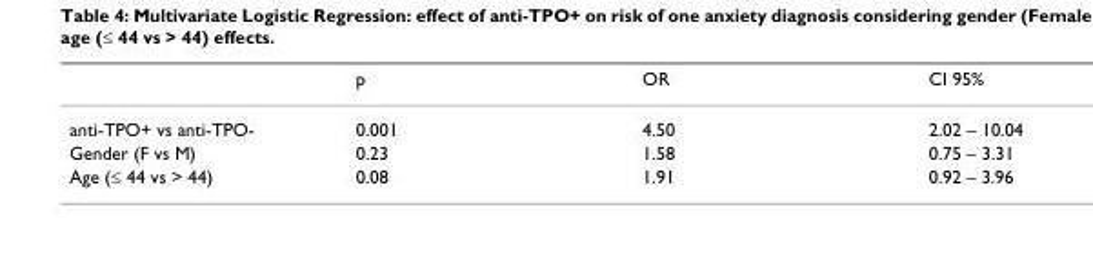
<table><thead><tr><td></td><td>p</td><td>OR</td><td>CI 95%</td></tr></thead><tbody><tr><td>anti-TPO+ vs anti-TPO-</td><td>0.001</td><td>4.50</td><td>2.02 – 10.04</td></tr><tr><td>Gender (F vs M)</td><td>0.23</td><td>1.58</td><td>0.75 – 3.31</td></tr><tr><td>Age (≤ 44 vs &gt; 44)</td><td>0.08</td><td>1.91</td><td>0.92 – 3.96</td></tr></tbody></table>